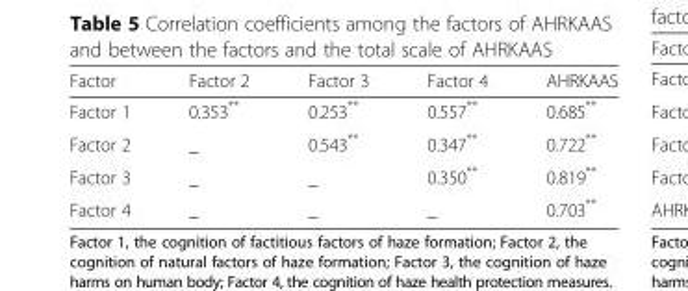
<table><thead><tr><td>Factor</td><td>Factor 2</td><td>Factor 3</td><td>Factor 4</td><td>AHRKAAS</td></tr></thead><tbody><tr><td>Factor 1</td><td>0.353**</td><td>0.253**</td><td>0.557**</td><td>0.685**</td></tr><tr><td>Factor 2</td><td>_</td><td>0.543**</td><td>0.347**</td><td>0.722**</td></tr><tr><td>Factor 3</td><td>_</td><td>_</td><td>0.350**</td><td>0.819**</td></tr><tr><td>Factor 4</td><td>_</td><td>_</td><td>_</td><td>0.703**</td></tr></tbody></table>